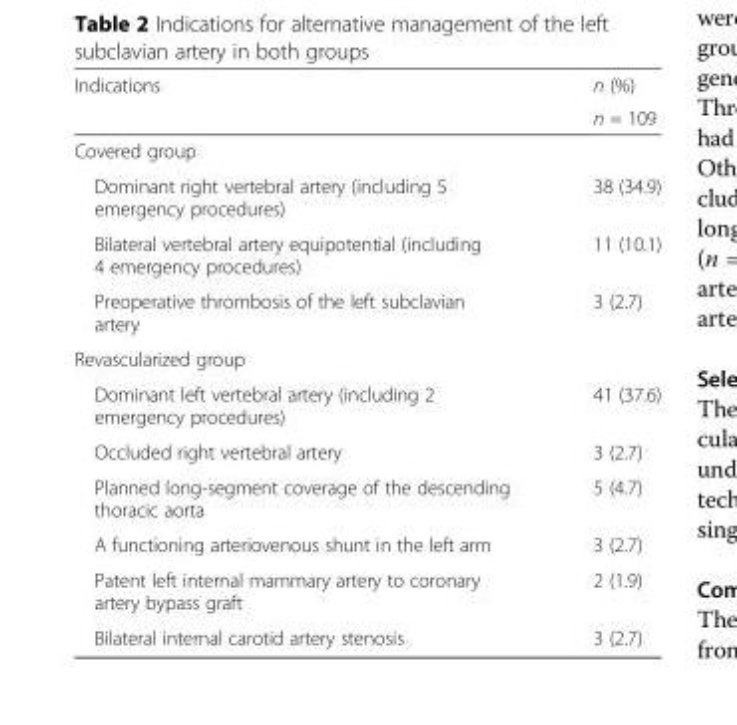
<table><thead><tr><td rowspan="2">Indications</td><td rowspan="2">n (%) n = 109</td></tr><tr></tr></thead><tbody><tr><td colspan="2">Covered group</td></tr><tr><td>Dominant right vertebral artery (including 5 emergency procedures)</td><td>38 (34.9)</td></tr><tr><td>Bilateral vertebral artery equipotential (including 4 emergency procedures)</td><td>11 (10.1)</td></tr><tr><td>Preoperative thrombosis of the left subclavian artery</td><td>3 (2.7)</td></tr><tr><td colspan="2">Revascularized group</td></tr><tr><td>Dominant left vertebral artery (including 2 emergency procedures)</td><td>41 (37.6)</td></tr><tr><td>Occluded right vertebral artery</td><td>3 (2.7)</td></tr><tr><td>Planned long-segment coverage of the descending thoracic aorta</td><td>5 (4.7)</td></tr><tr><td>A functioning arteriovenous shunt in the left arm</td><td>3 (2.7)</td></tr><tr><td>Patent left internal mammary artery to coronary artery bypass graft</td><td>2 (1.9)</td></tr><tr><td>Bilateral internal carotid artery stenosis</td><td>3 (2.7)</td></tr></tbody></table>